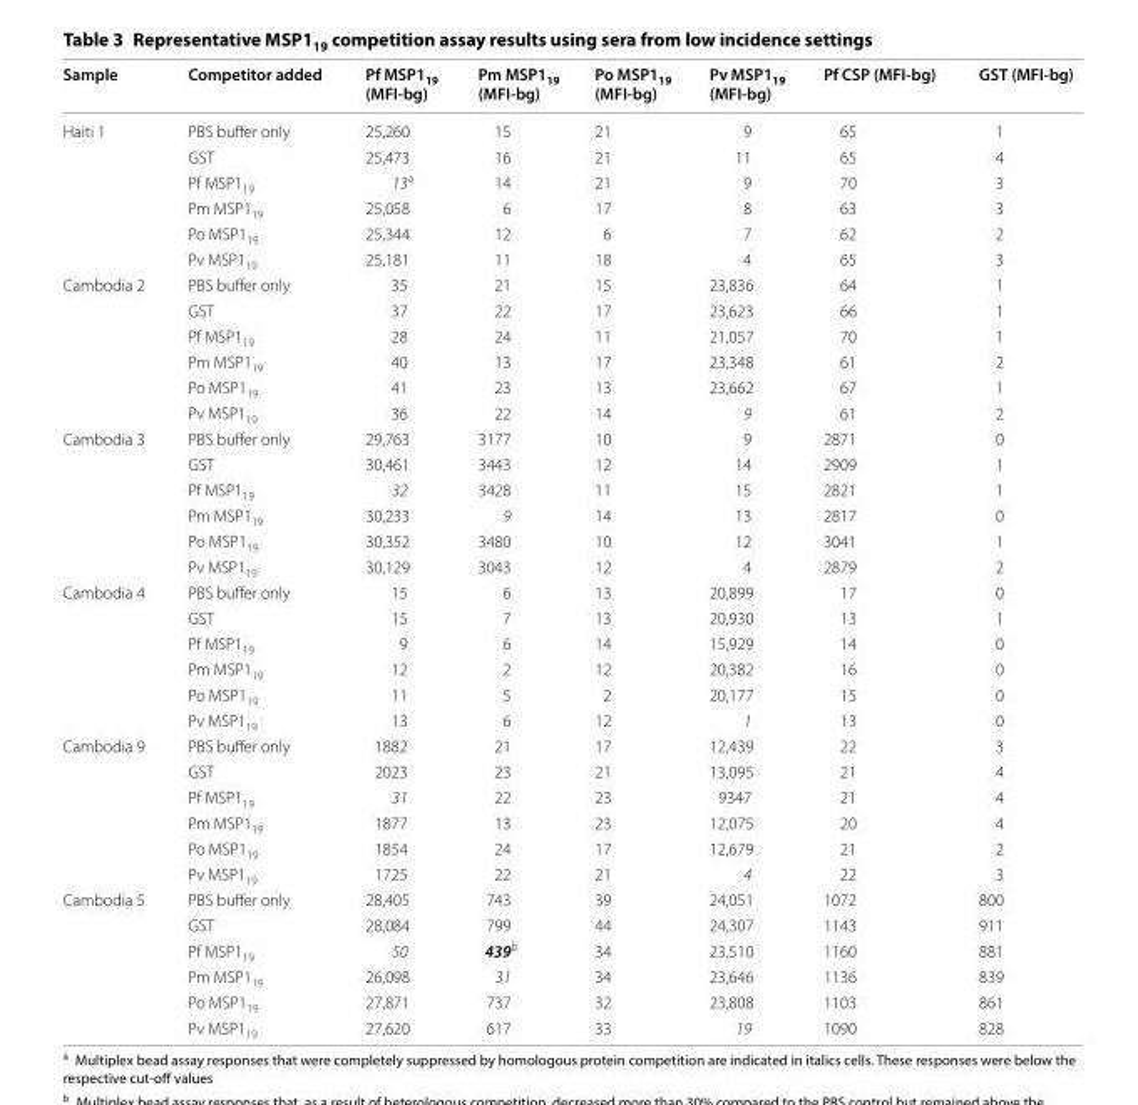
<table><thead><tr><td>Sample</td><td>Competitor added</td><td>Pf MSP1<sub>19</sub> (MFI‑bg)</td><td>Pm MSP1<sub>19</sub> (MFI‑bg)</td><td>Po MSP1<sub>19</sub> (MFI‑bg)</td><td>Pv MSP1<sub>19</sub> (MFI‑bg)</td><td>Pf CSP (MFI‑bg)</td><td>GST (MFI‑bg)</td></tr></thead><tbody><tr><td rowspan="6">Haiti 1</td><td>PBS buffer only</td><td>25,260</td><td>15</td><td>21</td><td>9</td><td>65</td><td>1</td></tr><tr><td>GST</td><td>25,473</td><td>16</td><td>21</td><td>11</td><td>65</td><td>4</td></tr><tr><td>Pf MSP1<sub>19</sub></td><td>13<sup>a</sup></td><td>14</td><td>21</td><td>9</td><td>70</td><td>3</td></tr><tr><td>Pm MSP1<sub>19</sub></td><td>25,058</td><td>6</td><td>17</td><td>8</td><td>63</td><td>3</td></tr><tr><td>Po MSP1<sub>19</sub></td><td>25,344</td><td>12</td><td>6</td><td>7</td><td>62</td><td>2</td></tr><tr><td>Pv MSP1<sub>19</sub></td><td>25,181</td><td>11</td><td>18</td><td>4</td><td>65</td><td>3</td></tr><tr><td rowspan="6">Cambodia 2</td><td>PBS buffer only</td><td>35</td><td>21</td><td>15</td><td>23,836</td><td>64</td><td>1</td></tr><tr><td>GST</td><td>37</td><td>22</td><td>17</td><td>23,623</td><td>66</td><td>1</td></tr><tr><td>Pf MSP1<sub>19</sub></td><td>28</td><td>24</td><td>11</td><td>21,057</td><td>70</td><td>1</td></tr><tr><td>Pm MSP1<sub>19</sub></td><td>40</td><td>13</td><td>17</td><td>23,348</td><td>61</td><td>2</td></tr><tr><td>Po MSP1<sub>19</sub></td><td>41</td><td>23</td><td>13</td><td>23,662</td><td>67</td><td>1</td></tr><tr><td>Pv MSP1<sub>19</sub></td><td>36</td><td>22</td><td>14</td><td>9</td><td>61</td><td>2</td></tr><tr><td rowspan="6">Cambodia 3</td><td>PBS buffer only</td><td>29,763</td><td>3177</td><td>10</td><td>9</td><td>2871</td><td>0</td></tr><tr><td>GST</td><td>30,461</td><td>3443</td><td>12</td><td>14</td><td>2909</td><td>1</td></tr><tr><td>Pf MSP1<sub>19</sub></td><td>32</td><td>3428</td><td>11</td><td>15</td><td>2821</td><td>1</td></tr><tr><td>Pm MSP1<sub>19</sub></td><td>30,233</td><td>9</td><td>14</td><td>13</td><td>2817</td><td>0</td></tr><tr><td>Po MSP1<sub>19</sub></td><td>30,352</td><td>3480</td><td>10</td><td>12</td><td>3041</td><td>1</td></tr><tr><td>Pv MSP1<sub>19</sub></td><td>30,129</td><td>3043</td><td>12</td><td>4</td><td>2879</td><td>2</td></tr><tr><td rowspan="6">Cambodia 4</td><td>PBS buffer only</td><td>15</td><td>6</td><td>13</td><td>20,899</td><td>17</td><td>0</td></tr><tr><td>GST</td><td>15</td><td>7</td><td>13</td><td>20,930</td><td>13</td><td>1</td></tr><tr><td>Pf MSP1<sub>19</sub></td><td>9</td><td>6</td><td>14</td><td>15,929</td><td>14</td><td>0</td></tr><tr><td>Pm MSP1<sub>19</sub></td><td>12</td><td>2</td><td>12</td><td>20,382</td><td>16</td><td>0</td></tr><tr><td>Po MSP1<sub>19</sub></td><td>11</td><td>5</td><td>2</td><td>20,177</td><td>15</td><td>0</td></tr><tr><td>Pv MSP1<sub>19</sub></td><td>13</td><td>6</td><td>12</td><td>1</td><td>13</td><td>0</td></tr><tr><td rowspan="6">Cambodia 9</td><td>PBS buffer only</td><td>1882</td><td>21</td><td>17</td><td>12,439</td><td>22</td><td>3</td></tr><tr><td>GST</td><td>2023</td><td>23</td><td>21</td><td>13,095</td><td>21</td><td>4</td></tr><tr><td>Pf MSP1<sub>19</sub></td><td>31</td><td>22</td><td>23</td><td>9347</td><td>21</td><td>4</td></tr><tr><td>Pm MSP1<sub>19</sub></td><td>1877</td><td>13</td><td>23</td><td>12,075</td><td>20</td><td>4</td></tr><tr><td>Po MSP1<sub>19</sub></td><td>1854</td><td>24</td><td>17</td><td>12,679</td><td>21</td><td>2</td></tr><tr><td>Pv MSP1<sub>19</sub></td><td>1725</td><td>22</td><td>21</td><td>4</td><td>22</td><td>3</td></tr><tr><td rowspan="6">Cambodia 5</td><td>PBS buffer only</td><td>28,405</td><td>743</td><td>39</td><td>24,051</td><td>1072</td><td>800</td></tr><tr><td>GST</td><td>28,084</td><td>799</td><td>44</td><td>24,307</td><td>1143</td><td>911</td></tr><tr><td>Pf MSP1<sub>19</sub></td><td>50</td><td>439<sup>b</sup></td><td>34</td><td>23,510</td><td>1160</td><td>881</td></tr><tr><td>Pm MSP1<sub>19</sub></td><td>26,098</td><td>31</td><td>34</td><td>23,646</td><td>1136</td><td>839</td></tr><tr><td>Po MSP1<sub>19</sub></td><td>27,871</td><td>737</td><td>32</td><td>23,808</td><td>1103</td><td>861</td></tr><tr><td>Pv MSP1<sub>19</sub></td><td>27,620</td><td>617</td><td>33</td><td>19</td><td>1090</td><td>828</td></tr></tbody></table>